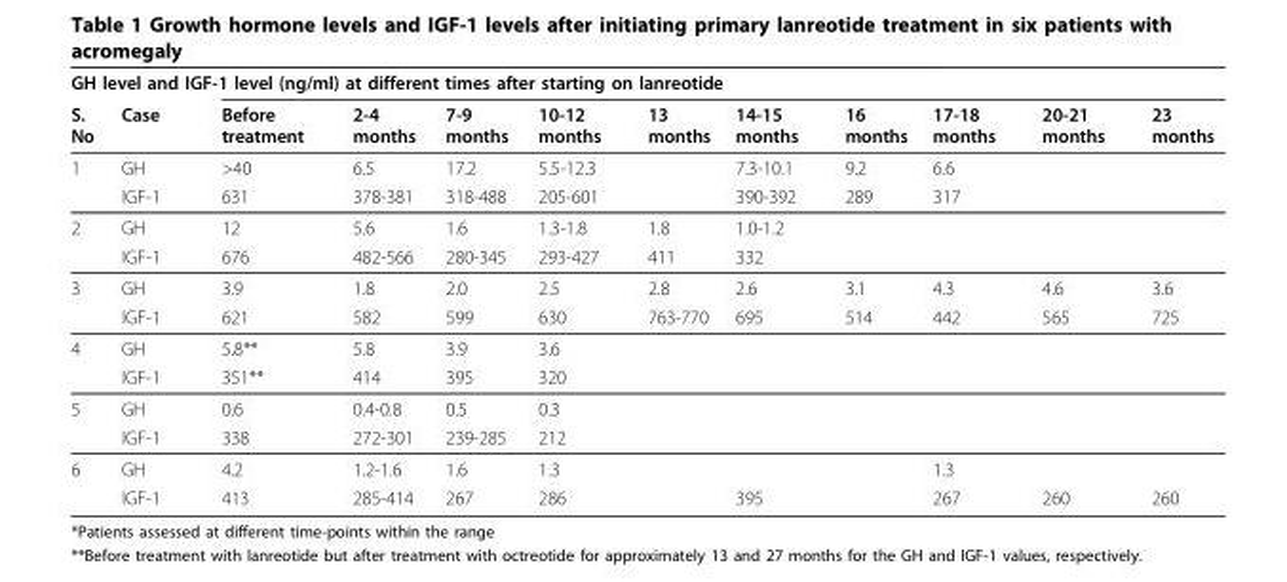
<table><thead><tr><td colspan="12">GH level and IGF-1 level (ng/ml) at different times after starting on lanreotide</td></tr><tr><td>S. No</td><td>Case</td><td>Before treatment</td><td>2-4 months</td><td>7-9 months</td><td>10-12 months</td><td>13 months</td><td>14-15 months</td><td>16 months</td><td>17-18 months</td><td>20-21 months</td><td>23 months</td></tr></thead><tbody><tr><td rowspan="2">1</td><td>GH</td><td>&gt;40</td><td>6.5</td><td>17.2</td><td>5.5-12.3</td><td></td><td>7.3-10.1</td><td>9.2</td><td>6.6</td><td></td><td></td></tr><tr><td>IGF-1</td><td>631</td><td>378-381</td><td>318-488</td><td>205-601</td><td></td><td>390-392</td><td>289</td><td>317</td><td></td><td></td></tr><tr><td rowspan="2">2</td><td>GH</td><td>12</td><td>5.6</td><td>1.6</td><td>1.3-1.8</td><td>1.8</td><td>1.0-1.2</td><td></td><td></td><td></td><td></td></tr><tr><td>IGF-1</td><td>676</td><td>482-566</td><td>280-345</td><td>293-427</td><td>411</td><td>332</td><td></td><td></td><td></td><td></td></tr><tr><td rowspan="2">3</td><td>GH</td><td>3.9</td><td>1.8</td><td>2.0</td><td>2.5</td><td>2.8</td><td>2.6</td><td>3.1</td><td>4.3</td><td>4.6</td><td>3.6</td></tr><tr><td>IGF-1</td><td>621</td><td>582</td><td>599</td><td>630</td><td>763-770</td><td>695</td><td>514</td><td>442</td><td>565</td><td>725</td></tr><tr><td rowspan="2">4</td><td>GH</td><td>5.8**</td><td>5.8</td><td>3.9</td><td>3.6</td><td></td><td></td><td></td><td></td><td></td><td></td></tr><tr><td>IGF-1</td><td>351**</td><td>414</td><td>395</td><td>320</td><td></td><td></td><td></td><td></td><td></td><td></td></tr><tr><td rowspan="2">5</td><td>GH</td><td>0.6</td><td>0.4-0.8</td><td>0.5</td><td>0.3</td><td></td><td></td><td></td><td></td><td></td><td></td></tr><tr><td>IGF-1</td><td>338</td><td>272-301</td><td>239-285</td><td>212</td><td></td><td></td><td></td><td></td><td></td><td></td></tr><tr><td rowspan="2">6</td><td>GH</td><td>4.2</td><td>1.2-1.6</td><td>1.6</td><td>1.3</td><td></td><td></td><td></td><td>1.3</td><td></td><td></td></tr><tr><td>IGF-1</td><td>413</td><td>285-414</td><td>267</td><td>286</td><td></td><td>395</td><td></td><td>267</td><td>260</td><td>260</td></tr></tbody></table>